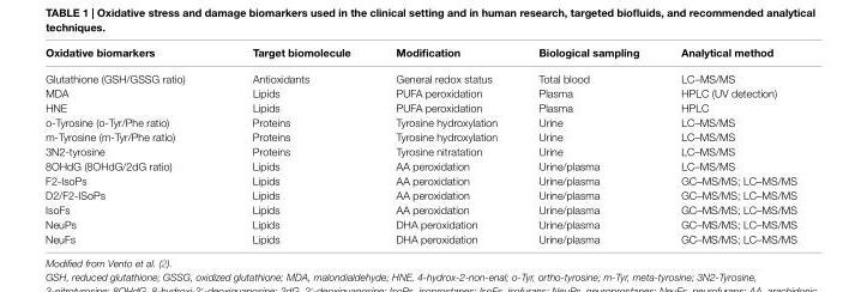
<table><thead><tr><td>Oxidative biomarkers</td><td>Target biomolecule</td><td>Modification</td><td>Biological sampling</td><td>Analytical method</td></tr></thead><tbody><tr><td>Glutathione (GSH/GSSG ratio)</td><td>Antioxidants</td><td>General redox status</td><td>Total blood</td><td>LC–MS/MS</td></tr><tr><td>MDA</td><td>Lipids</td><td>PUFA peroxidation</td><td>Plasma</td><td>HPLC (UV detection)</td></tr><tr><td>HNE</td><td>Lipids</td><td>PUFA peroxidation</td><td>Plasma</td><td>HPLC</td></tr><tr><td>o-Tyrosine (o-Tyr/Phe ratio)</td><td>Proteins</td><td>Tyrosine hydroxylation</td><td>Urine</td><td>LC–MS/MS</td></tr><tr><td>m-Tyrosine (m-Tyr/Phe ratio)</td><td>Proteins</td><td>Tyrosine hydroxylation</td><td>Urine</td><td>LC–MS/MS</td></tr><tr><td>3N2-tyrosine</td><td>Proteins</td><td>Tyrosine nitratation</td><td>Urine</td><td>LC–MS/MS</td></tr><tr><td>8OHdG (8OHdG/2dG ratio)</td><td>Lipids</td><td>AA peroxidation</td><td>Urine/plasma</td><td>LC–MS/MS</td></tr><tr><td>F2-IsoPs</td><td>Lipids</td><td>AA peroxidation</td><td>Urine/plasma</td><td>GC–MS/MS; LC–MS/MS</td></tr><tr><td>D2/F2-ISoPs</td><td>Lipids</td><td>AA peroxidation</td><td>Urine/plasma</td><td>GC–MS/MS; LC–MS/MS</td></tr><tr><td>IsoFs</td><td>Lipids</td><td>AA peroxidation</td><td>Urine/plasma</td><td>GC–MS/MS; LC–MS/MS</td></tr><tr><td>NeuPs</td><td>Lipids</td><td>DHA peroxidation</td><td>Urine/plasma</td><td>GC–MS/MS; LC–MS/MS</td></tr><tr><td>NeuFs</td><td>Lipids</td><td>DHA peroxidation</td><td>Urine/plasma</td><td>GC–MS/MS; LC–MS/MS</td></tr></tbody></table>